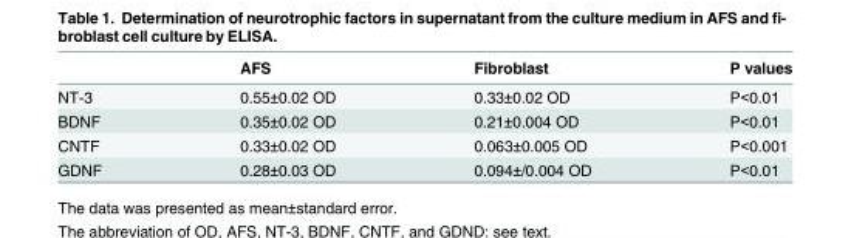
<table><thead><tr><td></td><td>AFS</td><td>Fibroblast</td><td>P values</td></tr></thead><tbody><tr><td>NT-3</td><td>0.55±0.02 OD</td><td>0.33±0.02 OD</td><td>P&lt;0.01</td></tr><tr><td>BDNF</td><td>0.35±0.02 OD</td><td>0.21±0.004 OD</td><td>P&lt;0.01</td></tr><tr><td>CNTF</td><td>0.33±0.02 OD</td><td>0.063±0.005 OD</td><td>P&lt;0.001</td></tr><tr><td>GDNF</td><td>0.28±0.03 OD</td><td>0.094±/0.004 OD</td><td>P&lt;0.01</td></tr></tbody></table>